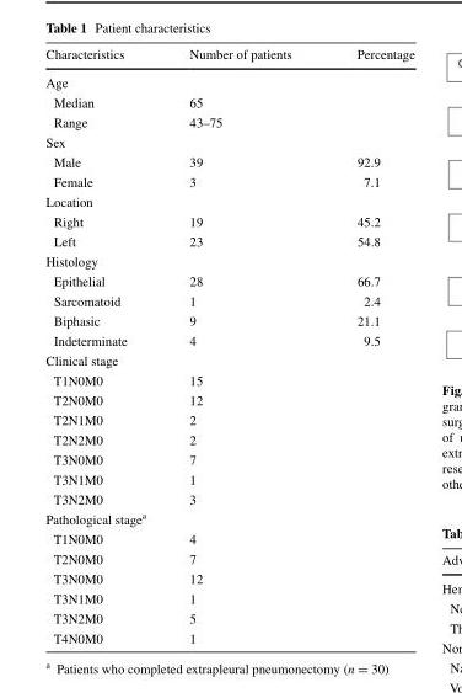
<table><thead><tr><td>Characteristics</td><td>Number of patients</td><td>Percentage</td></tr></thead><tbody><tr><td colspan="3">Age</td></tr><tr><td>Median</td><td>65</td><td></td></tr><tr><td>Range</td><td>43–75</td><td></td></tr><tr><td colspan="3">Sex</td></tr><tr><td>Male</td><td>39</td><td>92.9</td></tr><tr><td>Female</td><td>3</td><td>7.1</td></tr><tr><td colspan="3">Location</td></tr><tr><td>Right</td><td>19</td><td>45.2</td></tr><tr><td>Left</td><td>23</td><td>54.8</td></tr><tr><td colspan="3">Histology</td></tr><tr><td>Epithelial</td><td>28</td><td>66.7</td></tr><tr><td>Sarcomatoid</td><td>1</td><td>2.4</td></tr><tr><td>Biphasic</td><td>9</td><td>21.1</td></tr><tr><td>Indeterminate</td><td>4</td><td>9.5</td></tr><tr><td colspan="3">Clinical stage</td></tr><tr><td>T1N0M0</td><td>15</td><td></td></tr><tr><td>T2N0M0</td><td>12</td><td></td></tr><tr><td>T2N1M0</td><td>2</td><td></td></tr><tr><td>T2N2M0</td><td>2</td><td></td></tr><tr><td>T3N0M0</td><td>7</td><td></td></tr><tr><td>T3N1M0</td><td>1</td><td></td></tr><tr><td>T3N2M0</td><td>3</td><td></td></tr><tr><td colspan="3">Pathological stage<sup>a</sup></td></tr><tr><td>T1N0M0</td><td>4</td><td></td></tr><tr><td>T2N0M0</td><td>7</td><td></td></tr><tr><td>T3N0M0</td><td>12</td><td></td></tr><tr><td>T3N1M0</td><td>1</td><td></td></tr><tr><td>T3N2M0</td><td>5</td><td></td></tr><tr><td>T4N0M0</td><td>1</td><td></td></tr></tbody></table>